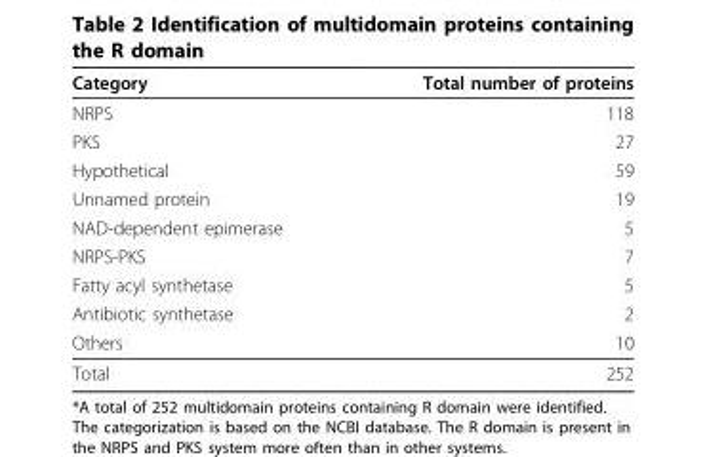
<table><thead><tr><td>Category</td><td>Total number of proteins</td></tr></thead><tbody><tr><td>NRPS</td><td>118</td></tr><tr><td>PKS</td><td>27</td></tr><tr><td>Hypothetical</td><td>59</td></tr><tr><td>Unnamed protein</td><td>19</td></tr><tr><td>NAD-dependent epimerase</td><td>5</td></tr><tr><td>NRPS-PKS</td><td>7</td></tr><tr><td>Fatty acyl synthetase</td><td>5</td></tr><tr><td>Antibiotic synthetase</td><td>2</td></tr><tr><td>Others</td><td>10</td></tr><tr><td>Total</td><td>252</td></tr></tbody></table>